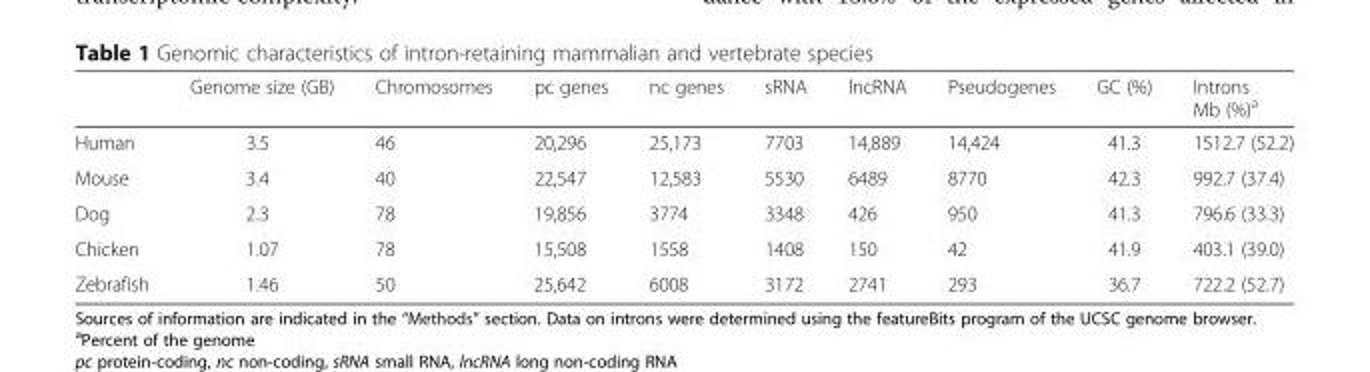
<table><thead><tr><td></td><td>Genome size (GB)</td><td>Chromosomes</td><td>pc genes</td><td>nc genes</td><td>sRNA</td><td>lncRNA</td><td>Pseudogenes</td><td>GC (%)</td><td>Introns Mb (%)<sup>a</sup></td></tr></thead><tbody><tr><td>Human</td><td>3.5</td><td>46</td><td>20,296</td><td>25,173</td><td>7703</td><td>14,889</td><td>14,424</td><td>41.3</td><td>1512.7 (52.2)</td></tr><tr><td>Mouse</td><td>3.4</td><td>40</td><td>22,547</td><td>12,583</td><td>5530</td><td>6489</td><td>8770</td><td>42.3</td><td>992.7 (37.4)</td></tr><tr><td>Dog</td><td>2.3</td><td>78</td><td>19,856</td><td>3774</td><td>3348</td><td>426</td><td>950</td><td>41.3</td><td>796.6 (33.3)</td></tr><tr><td>Chicken</td><td>1.07</td><td>78</td><td>15,508</td><td>1558</td><td>1408</td><td>150</td><td>42</td><td>41.9</td><td>403.1 (39.0)</td></tr><tr><td>Zebrafish</td><td>1.46</td><td>50</td><td>25,642</td><td>6008</td><td>3172</td><td>2741</td><td>293</td><td>36.7</td><td>722.2 (52.7)</td></tr></tbody></table>